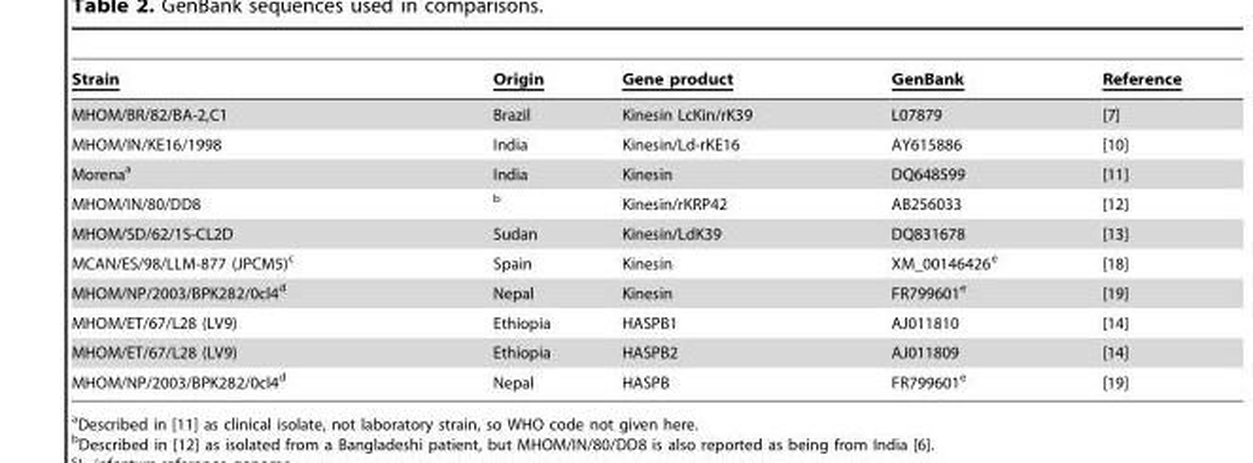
<table><thead><tr><td>Strain</td><td>Origin</td><td>Gene product</td><td>GenBank</td><td>Reference</td></tr></thead><tbody><tr><td>MHOM/BR/82/BA-2,C1</td><td>Brazil</td><td>Kinesin LcKin/rK39</td><td>L07879</td><td>[7]</td></tr><tr><td>MHOM/IN/KE16/1998</td><td>India</td><td>Kinesin/Ld-rKE16</td><td>AY615886</td><td>[10]</td></tr><tr><td>Morena<sup>a</sup></td><td>India</td><td>Kinesin</td><td>DQ648599</td><td>[11]</td></tr><tr><td>MHOM/IN/80/DD8</td><td>b</td><td>Kinesin/rKRP42</td><td>AB256033</td><td>[12]</td></tr><tr><td>MHOM/SD/62/1S-CL2D</td><td>Sudan</td><td>Kinesin/LdK39</td><td>DQ831678</td><td>[13]</td></tr><tr><td>MCAN/ES/98/LLM-877 (JPCM5)<sup>c</sup></td><td>Spain</td><td>Kinesin</td><td>XM_00146426<sup>e</sup></td><td>[18]</td></tr><tr><td>MHOM/NP/2003/BPK282/0cl4<sup>d</sup></td><td>Nepal</td><td>Kinesin</td><td>FR799601<sup>e</sup></td><td>[19]</td></tr><tr><td>MHOM/ET/67/L28 (LV9)</td><td>Ethiopia</td><td>HASPB1</td><td>AJ011810</td><td>[14]</td></tr><tr><td>MHOM/ET/67/L28 (LV9)</td><td>Ethiopia</td><td>HASPB2</td><td>AJ011809</td><td>[14]</td></tr><tr><td>MHOM/NP/2003/BPK282/0cl4<sup>d</sup></td><td>Nepal</td><td>HASPB</td><td>FR799601<sup>e</sup></td><td>[19]</td></tr></tbody></table>